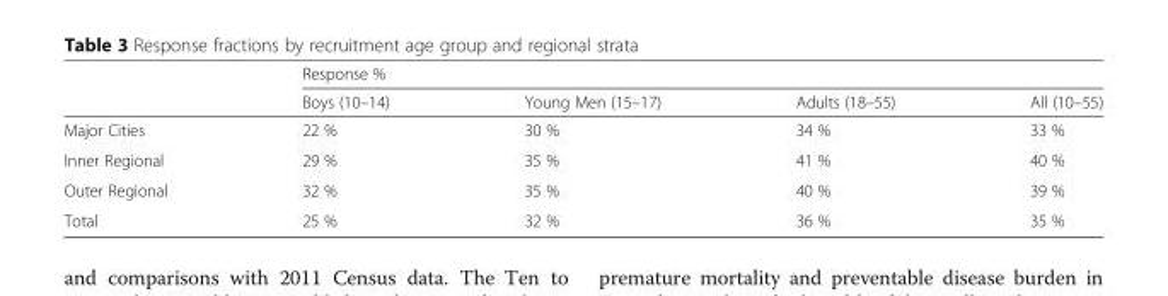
<table><thead><tr><td rowspan="2"></td><td colspan="4">Response %</td></tr><tr><td>Boys (10–14)</td><td>Young Men (15–17)</td><td>Adults (18–55)</td><td>All (10–55)</td></tr></thead><tbody><tr><td>Major Cities</td><td>22 %</td><td>30 %</td><td>34 %</td><td>33 %</td></tr><tr><td>Inner Regional</td><td>29 %</td><td>35 %</td><td>41 %</td><td>40 %</td></tr><tr><td>Outer Regional</td><td>32 %</td><td>35 %</td><td>40 %</td><td>39 %</td></tr><tr><td>Total</td><td>25 %</td><td>32 %</td><td>36 %</td><td>35 %</td></tr></tbody></table>